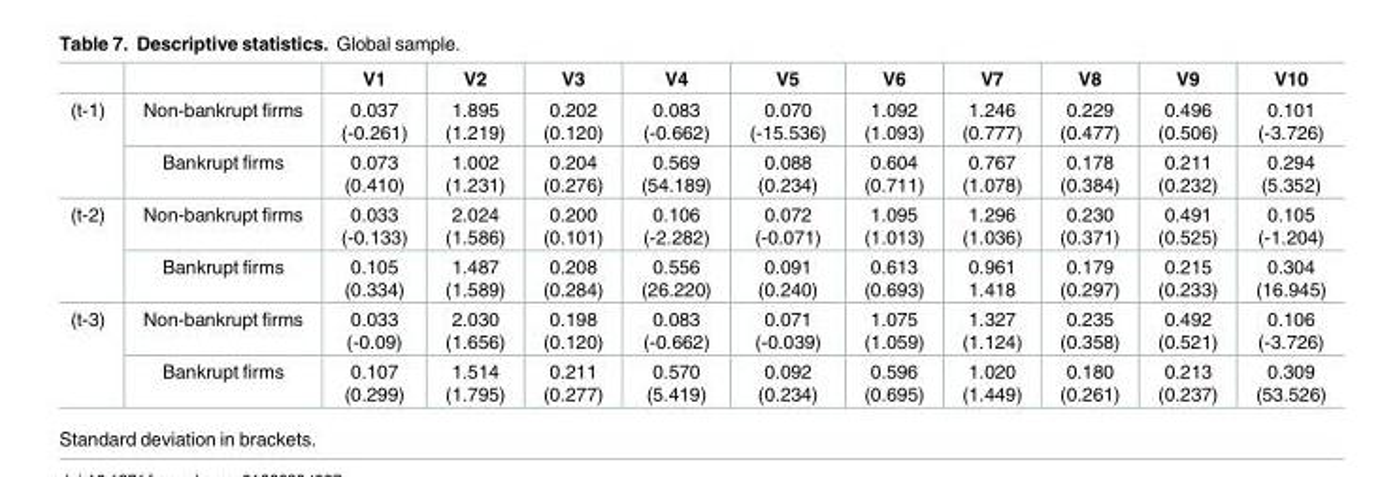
<table><thead><tr><td></td><td></td><td>V1</td><td>V2</td><td>V3</td><td>V4</td><td>V5</td><td>V6</td><td>V7</td><td>V8</td><td>V9</td><td>V10</td></tr></thead><tbody><tr><td rowspan="2">(t-1)</td><td>Non-bankrupt firms</td><td>0.037 (-0.261)</td><td>1.895 (1.219)</td><td>0.202 (0.120)</td><td>0.083 (-0.662)</td><td>0.070 (-15.536)</td><td>1.092 (1.093)</td><td>1.246 (0.777)</td><td>0.229 (0.477)</td><td>0.496 (0.506)</td><td>0.101 (-3.726)</td></tr><tr><td>Bankrupt firms</td><td>0.073 (0.410)</td><td>1.002 (1.231)</td><td>0.204 (0.276)</td><td>0.569 (54.189)</td><td>0.088 (0.234)</td><td>0.604 (0.711)</td><td>0.767 (1.078)</td><td>0.178 (0.384)</td><td>0.211 (0.232)</td><td>0.294 (5.352)</td></tr><tr><td rowspan="2">(t-2)</td><td>Non-bankrupt firms</td><td>0.033 (-0.133)</td><td>2.024 (1.586)</td><td>0.200 (0.101)</td><td>0.106 (-2.282)</td><td>0.072 (-0.071)</td><td>1.095 (1.013)</td><td>1.296 (1.036)</td><td>0.230 (0.371)</td><td>0.491 (0.525)</td><td>0.105 (-1.204)</td></tr><tr><td>Bankrupt firms</td><td>0.105 (0.334)</td><td>1.487 (1.589)</td><td>0.208 (0.284)</td><td>0.556 (26.220)</td><td>0.091 (0.240)</td><td>0.613 (0.693)</td><td>0.961 1.418</td><td>0.179 (0.297)</td><td>0.215 (0.233)</td><td>0.304 (16.945)</td></tr><tr><td rowspan="2">(t-3)</td><td>Non-bankrupt firms</td><td>0.033 (-0.09)</td><td>2.030 (1.656)</td><td>0.198 (0.120)</td><td>0.083 (-0.662)</td><td>0.071 (-0.039)</td><td>1.075 (1.059)</td><td>1.327 (1.124)</td><td>0.235 (0.358)</td><td>0.492 (0.521)</td><td>0.106 (-3.726)</td></tr><tr><td>Bankrupt firms</td><td>0.107 (0.299)</td><td>1.514 (1.795)</td><td>0.211 (0.277)</td><td>0.570 (5.419)</td><td>0.092 (0.234)</td><td>0.596 (0.695)</td><td>1.020 (1.449)</td><td>0.180 (0.261)</td><td>0.213 (0.237)</td><td>0.309 (53.526)</td></tr></tbody></table>